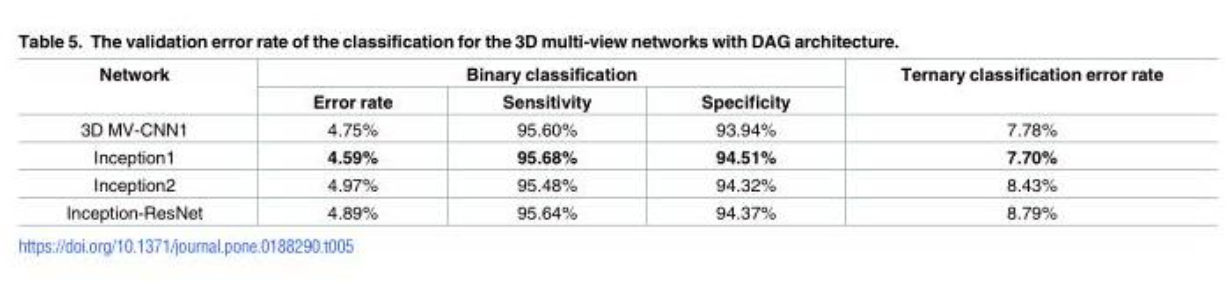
<table><thead><tr><td rowspan="2">Network</td><td colspan="3">Binary classification</td><td rowspan="2">Ternary classification error rate</td></tr><tr><td>Error rate</td><td>Sensitivity</td><td>Specificity</td></tr></thead><tbody><tr><td>3D MV-CNN1</td><td>4.75%</td><td>95.60%</td><td>93.94%</td><td>7.78%</td></tr><tr><td>Inception1</td><td>4.59%</td><td>95.68%</td><td>94.51%</td><td>7.70%</td></tr><tr><td>Inception2</td><td>4.97%</td><td>95.48%</td><td>94.32%</td><td>8.43%</td></tr><tr><td>Inception-ResNet</td><td>4.89%</td><td>95.64%</td><td>94.37%</td><td>8.79%</td></tr></tbody></table>